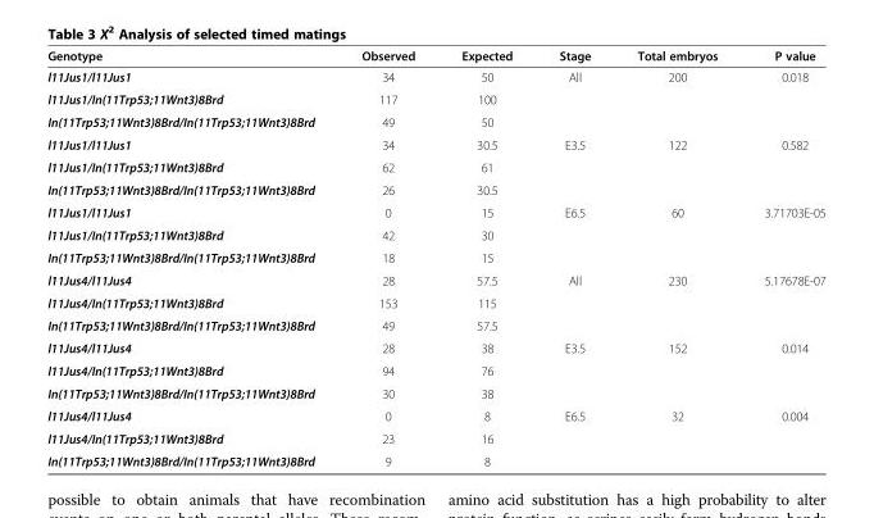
<table><thead><tr><td>Genotype</td><td>Observed</td><td>Expected</td><td>Stage</td><td>Total embryos</td><td>P value</td></tr></thead><tbody><tr><td>l11Jus1/l11Jus1</td><td>34</td><td>50</td><td>All</td><td>200</td><td>0.018</td></tr><tr><td>l11Jus1/In(11Trp53;11Wnt3)8Brd</td><td>117</td><td>100</td><td></td><td></td><td></td></tr><tr><td>In(11Trp53;11Wnt3)8Brd/In(11Trp53;11Wnt3)8Brd</td><td>49</td><td>50</td><td></td><td></td><td></td></tr><tr><td>l11Jus1/l11Jus1</td><td>34</td><td>30.5</td><td>E3.5</td><td>122</td><td>0.582</td></tr><tr><td>l11Jus1/In(11Trp53;11Wnt3)8Brd</td><td>62</td><td>61</td><td></td><td></td><td></td></tr><tr><td>In(11Trp53;11Wnt3)8Brd/In(11Trp53;11Wnt3)8Brd</td><td>26</td><td>30.5</td><td></td><td></td><td></td></tr><tr><td>l11Jus1/l11Jus1</td><td>0</td><td>15</td><td>E6.5</td><td>60</td><td>3.71703E-05</td></tr><tr><td>l11Jus1/In(11Trp53;11Wnt3)8Brd</td><td>42</td><td>30</td><td></td><td></td><td></td></tr><tr><td>In(11Trp53;11Wnt3)8Brd/In(11Trp53;11Wnt3)8Brd</td><td>18</td><td>15</td><td></td><td></td><td></td></tr><tr><td>l11Jus4/l11Jus4</td><td>28</td><td>57.5</td><td>All</td><td>230</td><td>5.17678E-07</td></tr><tr><td>l11Jus4/In(11Trp53;11Wnt3)8Brd</td><td>153</td><td>115</td><td></td><td></td><td></td></tr><tr><td>In(11Trp53;11Wnt3)8Brd/In(11Trp53;11Wnt3)8Brd</td><td>49</td><td>57.5</td><td></td><td></td><td></td></tr><tr><td>l11Jus4/l11Jus4</td><td>28</td><td>38</td><td>E3.5</td><td>152</td><td>0.014</td></tr><tr><td>l11Jus4/In(11Trp53;11Wnt3)8Brd</td><td>94</td><td>76</td><td></td><td></td><td></td></tr><tr><td>In(11Trp53;11Wnt3)8Brd/In(11Trp53;11Wnt3)8Brd</td><td>30</td><td>38</td><td></td><td></td><td></td></tr><tr><td>l11Jus4/l11Jus4</td><td>0</td><td>8</td><td>E6.5</td><td>32</td><td>0.004</td></tr><tr><td>l11Jus4/In(11Trp53;11Wnt3)8Brd</td><td>23</td><td>16</td><td></td><td></td><td></td></tr><tr><td>In(11Trp53;11Wnt3)8Brd/In(11Trp53;11Wnt3)8Brd</td><td>9</td><td>8</td><td></td><td></td><td></td></tr></tbody></table>